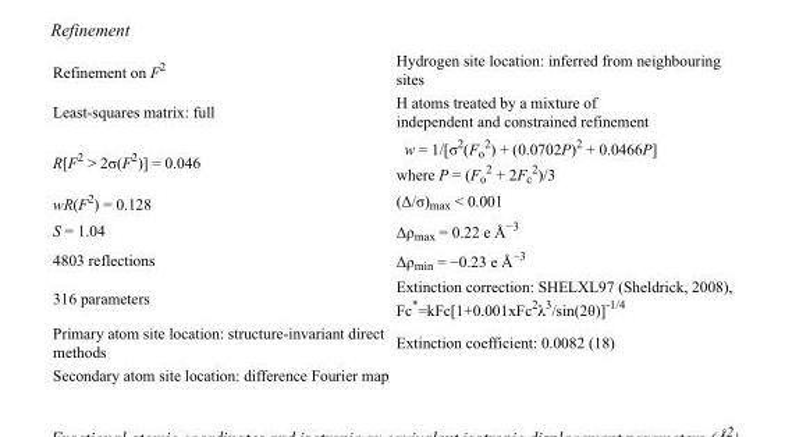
<table><tbody><tr><td>Refinement on F<sup>2</sup></td><td>Hydrogen site location: inferred from neighbouring sites</td></tr><tr><td>Least-squares matrix: full</td><td>H atoms treated by a mixture of independent and constrained refinement</td></tr><tr><td>R[F<sup>2</sup> &gt; 2σ(F<sup>2</sup>)] = 0.046</td><td>w = 1/[σ<sup>2</sup>(F<sub>o</sub> <sup>2</sup>) + (0.0702P)<sup>2</sup> + 0.0466P] where P = (F<sub>o</sub> <sup>2</sup> + 2F<sub>c</sub> <sup>2</sup>)/3</td></tr><tr><td>wR(F<sup>2</sup>) = 0.128</td><td>(Δ/σ)<sub>max</sub> &lt; 0.001</td></tr><tr><td>S = 1.04</td><td>Δρ<sub>max</sub> = 0.22 e Å<sup>−3</sup></td></tr><tr><td>4803 reflections</td><td>Δρ<sub>min</sub> = −0.23 e Å<sup>−3</sup></td></tr><tr><td>316 parameters</td><td>Extinction correction: SHELXL97 (Sheldrick, 2008), Fc*=kFc[1+0.001xFc<sup>2</sup>λ<sup>3</sup>/sin(2θ)]<sup>-1/4</sup></td></tr><tr><td>Primary atom site location: structure-invariant direct methods</td><td>Extinction coefficient: 0.0082 (18)</td></tr><tr><td>Secondary atom site location: difference Fourier map</td><td></td></tr></tbody></table>